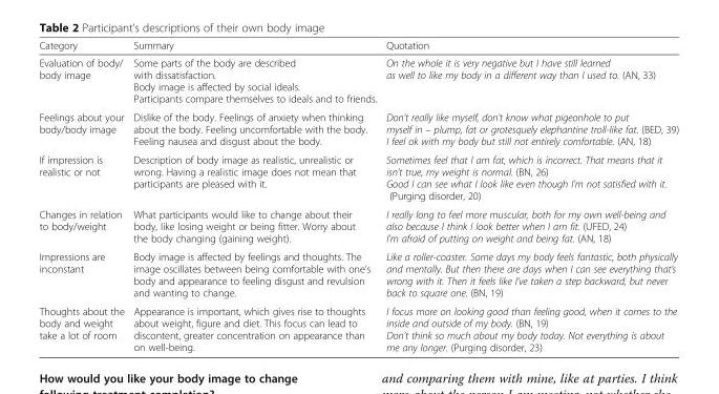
<table><thead><tr><td>Category</td><td>Summary</td><td>Quotation</td></tr></thead><tbody><tr><td>Evaluation of body/ body image</td><td>Some parts of the body are described with dissatisfaction. Body image is affected by social ideals. Participants compare themselves to ideals and to friends.</td><td>On the whole it is very negative but I have still learned as well to like my body in a different way than I used to. (AN, 33)</td></tr><tr><td>Feelings about your body/body image</td><td>Dislike of the body. Feelings of anxiety when thinking about the body. Feeling uncomfortable with the body. Feeling nausea and disgust about the body.</td><td>Don’t really like myself, don’t know what pigeonhole to put myself in – plump, fat or grotesquely elephantine troll-like fat. (BED, 39) I feel ok with my body but still not entirely comfortable. (AN, 18)</td></tr><tr><td>If impression is realistic or not</td><td>Description of body image as realistic, unrealistic or wrong. Having a realistic image does not mean that participants are pleased with it.</td><td>Sometimes feel that I am fat, which is incorrect. That means that it isn’t true, my weight is normal. (BN, 26) Good I can see what I look like even though I’m not satisfied with it. (Purging disorder, 20)</td></tr><tr><td>Changes in relation to body/weight</td><td>What participants would like to change about their body, like losing weight or being fitter. Worry about the body changing (gaining weight).</td><td>I really long to feel more muscular, both for my own well-being and also because I think I look better when I am fit. (UFED, 24) I’m afraid of putting on weight and being fat. (AN, 18)</td></tr><tr><td>Impressions are inconstant</td><td>Body image is affected by feelings and thoughts. The image oscillates between being comfortable with one’s body and appearance to feeling disgust and revulsion and wanting to change.</td><td>Like a roller-coaster. Some days my body feels fantastic, both physically and mentally. But then there are days when I can see everything that’s wrong with it. Then it feels like I’ve taken a step backward, but never back to square one. (BN, 19)</td></tr><tr><td>Thoughts about the body and weight take a lot of room</td><td>Appearance is important, which gives rise to thoughts about weight, figure and diet. This focus can lead to discontent, greater concentration on appearance than on well-being.</td><td>I focus more on looking good than feeling good, when it comes to the inside and outside of my body. (BN, 19) Don’t think so much about my body today. Not everything is about me any longer. (Purging disorder, 23)</td></tr></tbody></table>